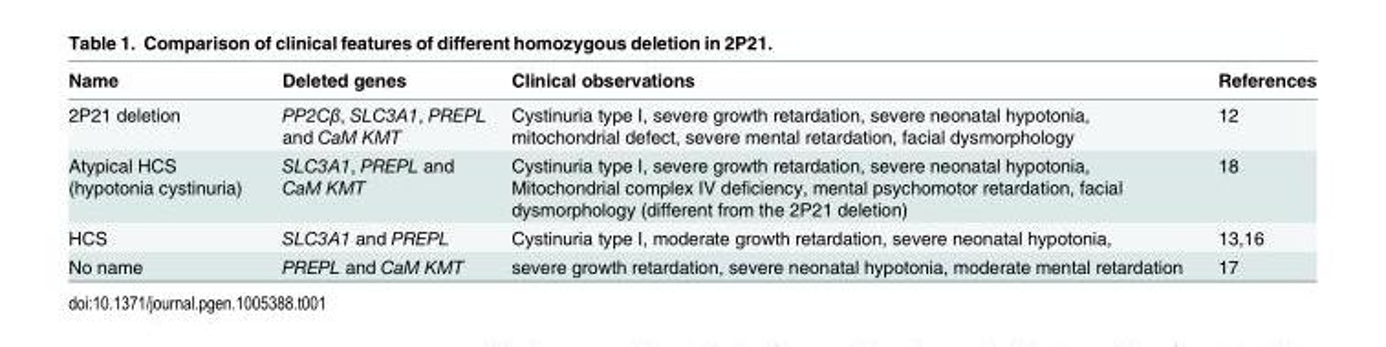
<table><thead><tr><td>Name</td><td>Deleted genes</td><td>Clinical observations</td><td>References</td></tr></thead><tbody><tr><td>2P21 deletion</td><td>PP2Cβ, SLC3A1, PREPL and CaM KMT</td><td>Cystinuria type I, severe growth retardation, severe neonatal hypotonia, mitochondrial defect, severe mental retardation, facial dysmorphology</td><td>12</td></tr><tr><td>Atypical HCS (hypotonia cystinuria)</td><td>SLC3A1, PREPL and CaM KMT</td><td>Cystinuria type I, severe growth retardation, severe neonatal hypotonia, Mitochondrial complex IV deficiency, mental psychomotor retardation, facial dysmorphology (different from the 2P21 deletion)</td><td>18</td></tr><tr><td>HCS</td><td>SLC3A1 and PREPL</td><td>Cystinuria type I, moderate growth retardation, severe neonatal hypotonia,</td><td>13,16</td></tr><tr><td>No name</td><td>PREPL and CaM KMT</td><td>severe growth retardation, severe neonatal hypotonia, moderate mental retardation</td><td>17</td></tr></tbody></table>